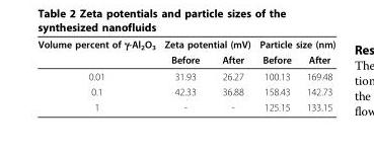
<table><thead><tr><td rowspan="2">Volume percent of γ-Al<sub>2</sub>O<sub>3</sub></td><td colspan="2">Zeta potential (mV)</td><td colspan="2">Particle size (nm)</td></tr><tr><td>Before</td><td>After</td><td>Before</td><td>After</td></tr></thead><tbody><tr><td>0.01</td><td>31.93</td><td>26.27</td><td>100.13</td><td>169.48</td></tr><tr><td>0.1</td><td>42.33</td><td>36.88</td><td>158.43</td><td>142.73</td></tr><tr><td>1</td><td>-</td><td>-</td><td>125.15</td><td>133.15</td></tr></tbody></table>